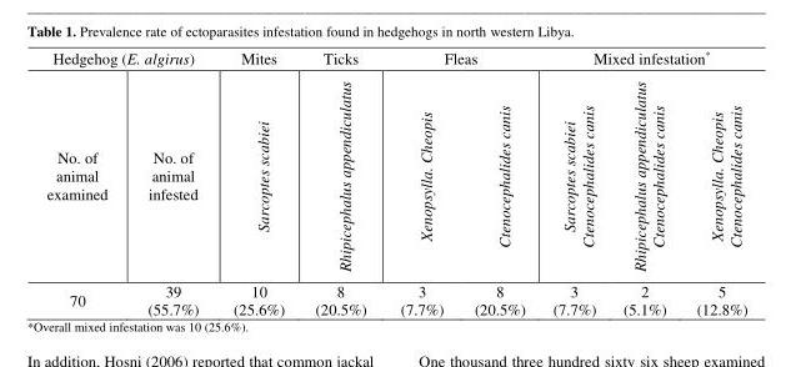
<table><thead><tr><td colspan="2">Hedgehog (E. algirus)</td><td rowspan="2">Mites Sarcoptes scabiei</td><td rowspan="2">Ticks Rhipicephalus appendiculatus</td><td colspan="2">Fleas</td><td colspan="3">Mixed infestation*</td></tr><tr><td>No. of animal examined</td><td>No. of animal infested</td><td>Xenopsylla. Cheopis</td><td>Ctenocephalides canis</td><td>Sarcoptes scabiei Ctenocephalides canis</td><td>Rhipicephalus appendiculatus Ctenocephalides canis</td><td>Xenopsylla. Cheopis Ctenocephalides canis</td></tr></thead><tbody><tr><td>70</td><td>39 (55.7%)</td><td>10 (25.6%)</td><td>8 (20.5%)</td><td>3 (7.7%)</td><td>8 (20.5%)</td><td>3 (7.7%)</td><td>2 (5.1%)</td><td>5 (12.8%)</td></tr></tbody></table>